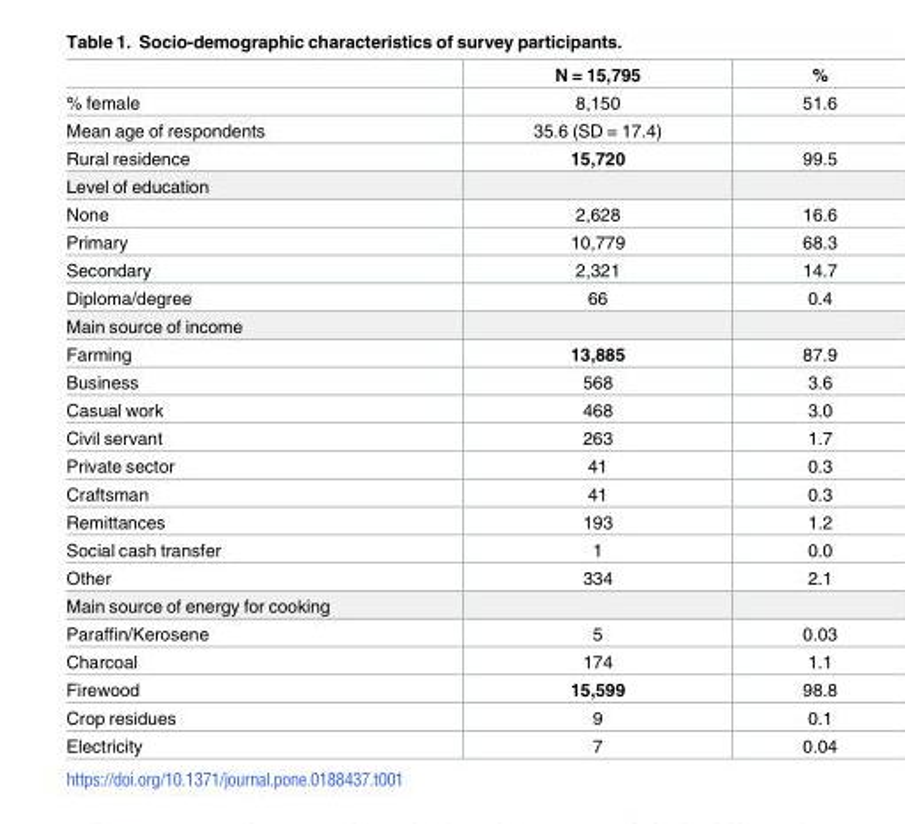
<table><thead><tr><td></td><td>N = 15,795</td><td>%</td></tr></thead><tbody><tr><td>% female</td><td>8,150</td><td>51.6</td></tr><tr><td>Mean age of respondents</td><td>35.6 (SD = 17.4)</td><td></td></tr><tr><td>Rural residence</td><td>15,720</td><td>99.5</td></tr><tr><td colspan="3">Level of education</td></tr><tr><td>None</td><td>2,628</td><td>16.6</td></tr><tr><td>Primary</td><td>10,779</td><td>68.3</td></tr><tr><td>Secondary</td><td>2,321</td><td>14.7</td></tr><tr><td>Diploma/degree</td><td>66</td><td>0.4</td></tr><tr><td colspan="3">Main source of income</td></tr><tr><td>Farming</td><td>13,885</td><td>87.9</td></tr><tr><td>Business</td><td>568</td><td>3.6</td></tr><tr><td>Casual work</td><td>468</td><td>3.0</td></tr><tr><td>Civil servant</td><td>263</td><td>1.7</td></tr><tr><td>Private sector</td><td>41</td><td>0.3</td></tr><tr><td>Craftsman</td><td>41</td><td>0.3</td></tr><tr><td>Remittances</td><td>193</td><td>1.2</td></tr><tr><td>Social cash transfer</td><td>1</td><td>0.0</td></tr><tr><td>Other</td><td>334</td><td>2.1</td></tr><tr><td colspan="3">Main source of energy for cooking</td></tr><tr><td>Paraffin/Kerosene</td><td>5</td><td>0.03</td></tr><tr><td>Charcoal</td><td>174</td><td>1.1</td></tr><tr><td>Firewood</td><td>15,599</td><td>98.8</td></tr><tr><td>Crop residues</td><td>9</td><td>0.1</td></tr><tr><td>Electricity</td><td>7</td><td>0.04</td></tr></tbody></table>